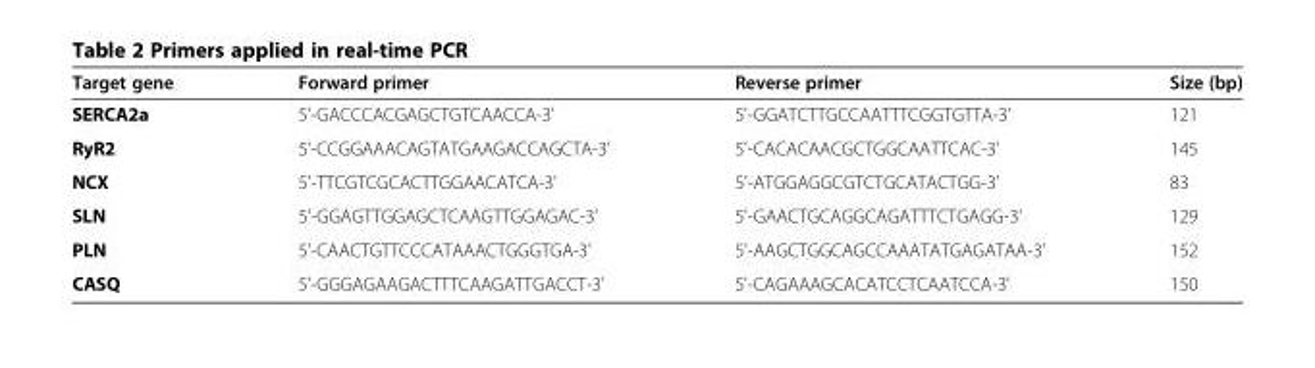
<table><thead><tr><td>Target gene</td><td>Forward primer</td><td>Reverse primer</td><td>Size (bp)</td></tr></thead><tbody><tr><td>SERCA2a</td><td>5&#x27;-GACCCACGAGCTGTCAACCA-3&#x27;</td><td>5&#x27;-GGATCTTGCCAATTTCGGTGTTA-3&#x27;</td><td>121</td></tr><tr><td>RyR2</td><td>5&#x27;-CCGGAAACAGTATGAAGACCAGCTA-3&#x27;</td><td>5&#x27;-CACACAACGCTGGCAATTCAC-3&#x27;</td><td>145</td></tr><tr><td>NCX</td><td>5&#x27;-TTCGTCGCACTTGGAACATCA-3&#x27;</td><td>5&#x27;-ATGGAGGCGTCTGCATACTGG-3&#x27;</td><td>83</td></tr><tr><td>SLN</td><td>5&#x27;-GGAGTTGGAGCTCAAGTTGGAGAC-3&#x27;</td><td>5&#x27;-GAACTGCAGGCAGATTTCTGAGG-3&#x27;</td><td>129</td></tr><tr><td>PLN</td><td>5&#x27;-CAACTGTTCCCATAAACTGGGTGA-3&#x27;</td><td>5&#x27;-AAGCTGGCAGCCAAATATGAGATAA-3&#x27;</td><td>152</td></tr><tr><td>CASQ</td><td>5&#x27;-GGGAGAAGACTTTCAAGATTGACCT-3&#x27;</td><td>5&#x27;-CAGAAAGCACATCCTCAATCCA-3&#x27;</td><td>150</td></tr></tbody></table>